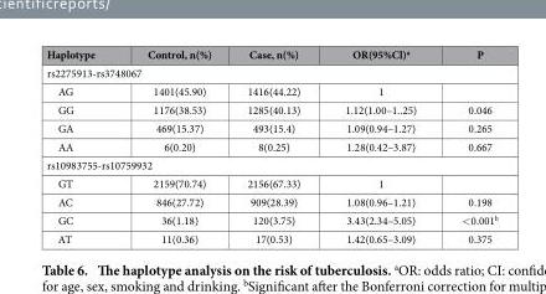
<table><thead><tr><td>Haplotype</td><td>Control, n(%)</td><td>Case, n(%)</td><td>OR(95%Cl)<sup>a</sup></td><td>P</td></tr></thead><tbody><tr><td colspan="5">rs2275913-rs3748067</td></tr><tr><td>AG</td><td>1401(45.90)</td><td>1416(44.22)</td><td>1</td><td></td></tr><tr><td>GG</td><td>1176(38.53)</td><td>1285(40.13)</td><td>1.12(1.00–1..25)</td><td>0.046</td></tr><tr><td>GA</td><td>469(15.37)</td><td>493(15.4)</td><td>1.09(0.94–1.27)</td><td>0.265</td></tr><tr><td>AA</td><td>6(0.20)</td><td>8(0.25)</td><td>1.28(0.42–3.87)</td><td>0.667</td></tr><tr><td colspan="5">rs10983755-rs10759932</td></tr><tr><td>GT</td><td>2159(70.74)</td><td>2156(67.33)</td><td>1</td><td></td></tr><tr><td>AC</td><td>846(27.72)</td><td>909(28.39)</td><td>1.08(0.96–1.21)</td><td>0.198</td></tr><tr><td>GC</td><td>36(1.18)</td><td>120(3.75)</td><td>3.43(2.34–5.05)</td><td>&lt; 0.001<sup>b</sup></td></tr><tr><td>AT</td><td>11(0.36)</td><td>17(0.53)</td><td>1.42(0.65–3.09)</td><td>0.375</td></tr></tbody></table>